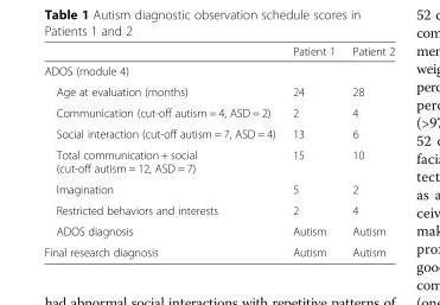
<table><thead><tr><td></td><td>Patient 1</td><td>Patient 2</td></tr></thead><tbody><tr><td colspan="3">ADOS (module 4)</td></tr><tr><td>Age at evaluation (months)</td><td>24</td><td>28</td></tr><tr><td>Communication (cut-off autism = 4, ASD = 2)</td><td>2</td><td>4</td></tr><tr><td>Social interaction (cut-off autism = 7, ASD = 4)</td><td>13</td><td>6</td></tr><tr><td>Total communication + social (cut-off autism = 12, ASD = 7)</td><td>15</td><td>10</td></tr><tr><td>Imagination</td><td>5</td><td>2</td></tr><tr><td>Restricted behaviors and interests</td><td>2</td><td>4</td></tr><tr><td>ADOS diagnosis</td><td>Autism</td><td>Autism</td></tr><tr><td>Final research diagnosis</td><td>Autism</td><td>Autism</td></tr></tbody></table>